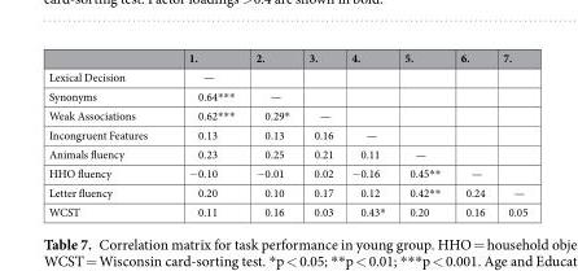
<table><thead><tr><td></td><td>1.</td><td>2.</td><td>3.</td><td>4.</td><td>5.</td><td>6.</td><td>7.</td></tr></thead><tbody><tr><td>Lexical Decision</td><td>—</td><td></td><td></td><td></td><td></td><td></td><td></td></tr><tr><td>Synonyms</td><td>0.64***</td><td>—</td><td></td><td></td><td></td><td></td><td></td></tr><tr><td>Weak Associations</td><td>0.62***</td><td>0.29*</td><td>—</td><td></td><td></td><td></td><td></td></tr><tr><td>Incongruent Features</td><td>0.13</td><td>0.13</td><td>0.16</td><td>—</td><td></td><td></td><td></td></tr><tr><td>Animals fluency</td><td>0.23</td><td>0.25</td><td>0.21</td><td>0.11</td><td>—</td><td></td><td></td></tr><tr><td>HHO fluency</td><td>−0.10</td><td>−0.01</td><td>0.02</td><td>−0.16</td><td>0.45**</td><td>—</td><td></td></tr><tr><td>Letter fluency</td><td>0.20</td><td>0.10</td><td>0.17</td><td>0.12</td><td>0.42**</td><td>0.24</td><td>—</td></tr><tr><td>WCST</td><td>0.11</td><td>0.16</td><td>0.03</td><td>0.43*</td><td>0.20</td><td>0.16</td><td>0.05</td></tr></tbody></table>